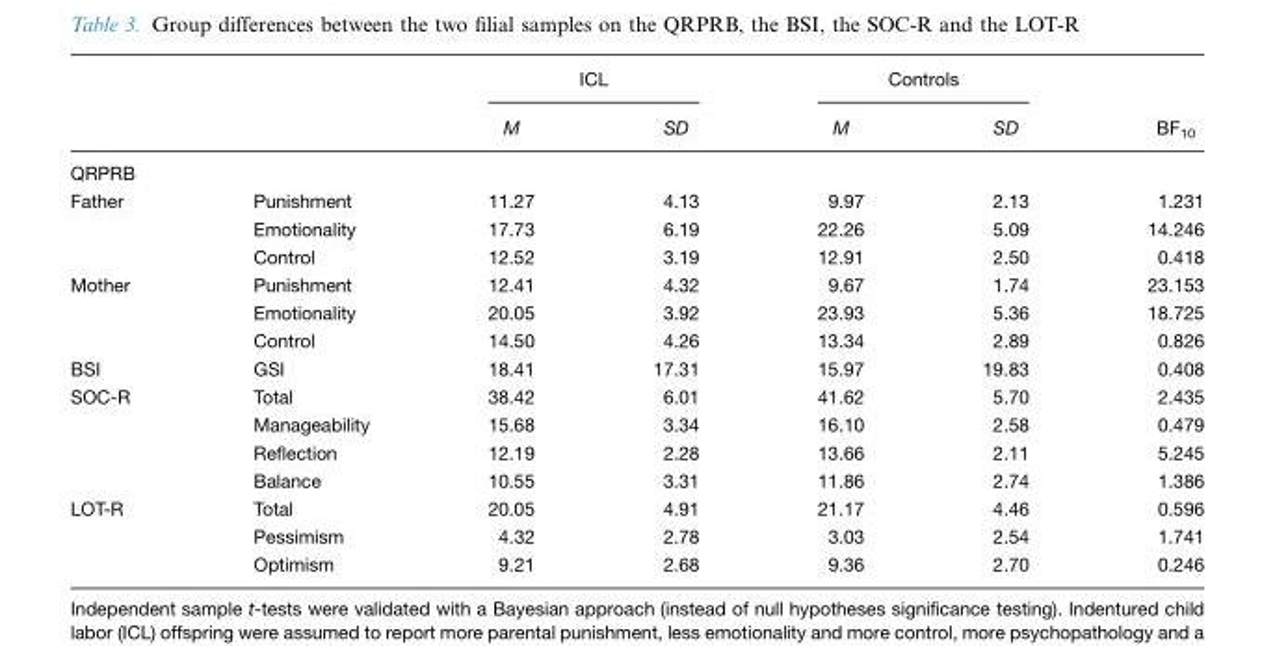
<table><thead><tr><td rowspan="2"></td><td rowspan="2"></td><td colspan="2">ICL</td><td colspan="2">Controls</td><td rowspan="2">BF<sub>10</sub></td></tr><tr><td>M</td><td>SD</td><td>M</td><td>SD</td></tr></thead><tbody><tr><td colspan="7">QRPRB</td></tr><tr><td rowspan="3">Father</td><td>Punishment</td><td>11.27</td><td>4.13</td><td>9.97</td><td>2.13</td><td>1.231</td></tr><tr><td>Emotionality</td><td>17.73</td><td>6.19</td><td>22.26</td><td>5.09</td><td>14.246</td></tr><tr><td>Control</td><td>12.52</td><td>3.19</td><td>12.91</td><td>2.50</td><td>0.418</td></tr><tr><td rowspan="3">Mother</td><td>Punishment</td><td>12.41</td><td>4.32</td><td>9.67</td><td>1.74</td><td>23.153</td></tr><tr><td>Emotionality</td><td>20.05</td><td>3.92</td><td>23.93</td><td>5.36</td><td>18.725</td></tr><tr><td>Control</td><td>14.50</td><td>4.26</td><td>13.34</td><td>2.89</td><td>0.826</td></tr><tr><td>BSI</td><td>GSI</td><td>18.41</td><td>17.31</td><td>15.97</td><td>19.83</td><td>0.408</td></tr><tr><td rowspan="4">SOC-R</td><td>Total</td><td>38.42</td><td>6.01</td><td>41.62</td><td>5.70</td><td>2.435</td></tr><tr><td>Manageability</td><td>15.68</td><td>3.34</td><td>16.10</td><td>2.58</td><td>0.479</td></tr><tr><td>Reflection</td><td>12.19</td><td>2.28</td><td>13.66</td><td>2.11</td><td>5.245</td></tr><tr><td>Balance</td><td>10.55</td><td>3.31</td><td>11.86</td><td>2.74</td><td>1.386</td></tr><tr><td rowspan="3">LOT-R</td><td>Total</td><td>20.05</td><td>4.91</td><td>21.17</td><td>4.46</td><td>0.596</td></tr><tr><td>Pessimism</td><td>4.32</td><td>2.78</td><td>3.03</td><td>2.54</td><td>1.741</td></tr><tr><td>Optimism</td><td>9.21</td><td>2.68</td><td>9.36</td><td>2.70</td><td>0.246</td></tr></tbody></table>